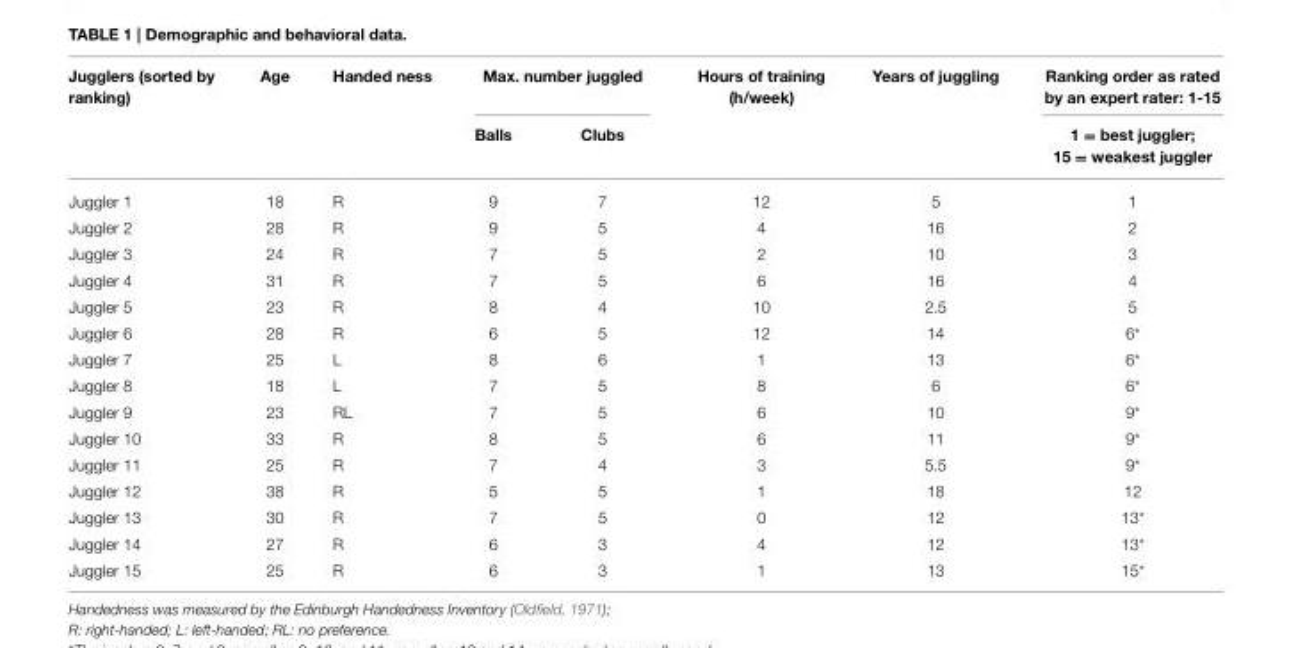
<table><thead><tr><td rowspan="2">Jugglers (sorted by ranking)</td><td rowspan="2">Age</td><td rowspan="2">Handed ness</td><td colspan="2">Max. number juggled</td><td rowspan="2">Hours of training (h/week)</td><td rowspan="2">Years of juggling</td><td rowspan="2">Ranking order as rated by an expert rater: 1-15 1 = best juggler; 15 = weakest juggler</td></tr><tr><td>Balls</td><td>Clubs</td></tr></thead><tbody><tr><td>Juggler 1</td><td>18</td><td>R</td><td>9</td><td>7</td><td>12</td><td>5</td><td>1</td></tr><tr><td>Juggler 2</td><td>28</td><td>R</td><td>9</td><td>5</td><td>4</td><td>16</td><td>2</td></tr><tr><td>Juggler 3</td><td>24</td><td>R</td><td>7</td><td>5</td><td>2</td><td>10</td><td>3</td></tr><tr><td>Juggler 4</td><td>31</td><td>R</td><td>7</td><td>5</td><td>6</td><td>16</td><td>4</td></tr><tr><td>Juggler 5</td><td>23</td><td>R</td><td>8</td><td>4</td><td>10</td><td>2.5</td><td>5</td></tr><tr><td>Juggler 6</td><td>28</td><td>R</td><td>6</td><td>5</td><td>12</td><td>14</td><td>6*</td></tr><tr><td>Juggler 7</td><td>25</td><td>L</td><td>8</td><td>6</td><td>1</td><td>13</td><td>6*</td></tr><tr><td>Juggler 8</td><td>18</td><td>L</td><td>7</td><td>5</td><td>8</td><td>6</td><td>6*</td></tr><tr><td>Juggler 9</td><td>23</td><td>RL</td><td>7</td><td>5</td><td>6</td><td>10</td><td>9*</td></tr><tr><td>Juggler 10</td><td>33</td><td>R</td><td>8</td><td>5</td><td>6</td><td>11</td><td>9*</td></tr><tr><td>Juggler 11</td><td>25</td><td>R</td><td>7</td><td>4</td><td>3</td><td>5.5</td><td>9*</td></tr><tr><td>Juggler 12</td><td>38</td><td>R</td><td>5</td><td>5</td><td>1</td><td>18</td><td>12</td></tr><tr><td>Juggler 13</td><td>30</td><td>R</td><td>7</td><td>5</td><td>0</td><td>12</td><td>13*</td></tr><tr><td>Juggler 14</td><td>27</td><td>R</td><td>6</td><td>3</td><td>4</td><td>12</td><td>13*</td></tr><tr><td>Juggler 15</td><td>25</td><td>R</td><td>6</td><td>3</td><td>1</td><td>13</td><td>15*</td></tr></tbody></table>